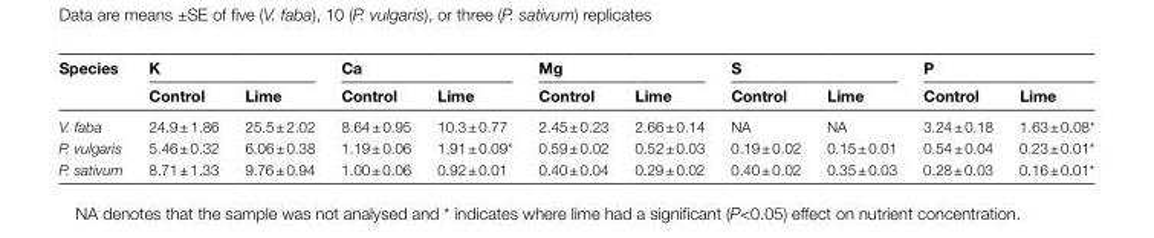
<table><thead><tr><td rowspan="2">Species</td><td colspan="2">K</td><td colspan="2">Ca</td><td colspan="2">Mg</td><td colspan="2">S</td><td colspan="2">P</td></tr><tr><td>Control</td><td>Lime</td><td>Control</td><td>Lime</td><td>Control</td><td>Lime</td><td>Control</td><td>Lime</td><td>Control</td><td>Lime</td></tr></thead><tbody><tr><td>V. faba</td><td>24.9 ± 1.86</td><td>25.5 ± 2.02</td><td>8.64 ± 0.95</td><td>10.3 ± 0.77</td><td>2.45 ± 0.23</td><td>2.66 ± 0.14</td><td>NA</td><td>NA</td><td>3.24 ± 0.18</td><td>1.63 ± 0.08*</td></tr><tr><td>P. vulgaris</td><td>5.46 ± 0.32</td><td>6.06 ± 0.38</td><td>1.19 ± 0.06</td><td>1.91 ± 0.09*</td><td>0.59 ± 0.02</td><td>0.52 ± 0.03</td><td>0.19 ± 0.02</td><td>0.15 ± 0.01</td><td>0.54 ± 0.04</td><td>0.23 ± 0.01*</td></tr><tr><td>P. sativum</td><td>8.71 ± 1.33</td><td>9.76 ± 0.94</td><td>1.00 ± 0.06</td><td>0.92 ± 0.01</td><td>0.40 ± 0.04</td><td>0.29 ± 0.02</td><td>0.40 ± 0.02</td><td>0.35 ± 0.03</td><td>0.28 ± 0.03</td><td>0.16 ± 0.01*</td></tr></tbody></table>